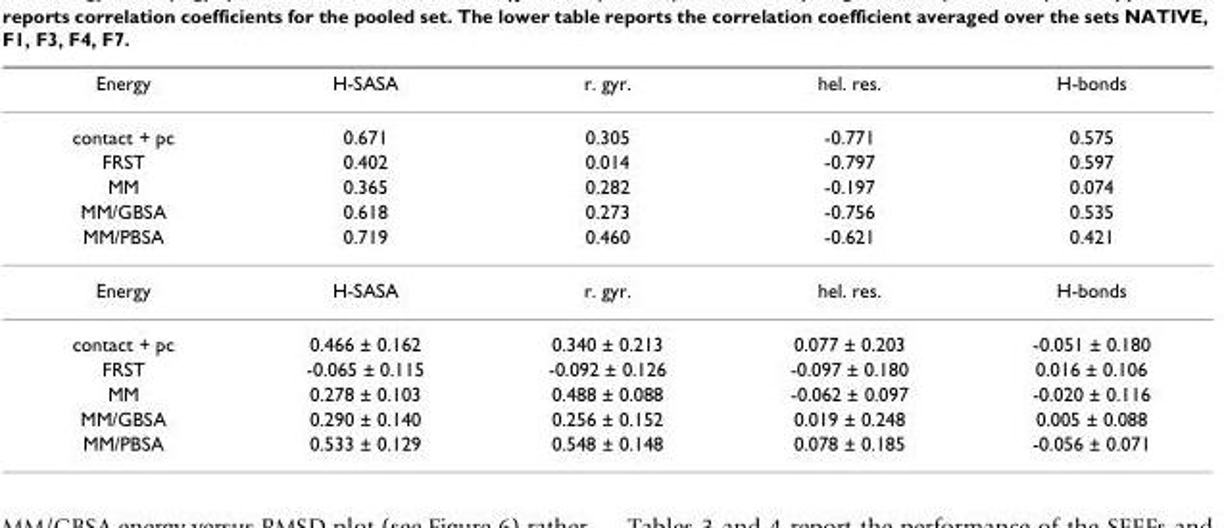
<table><thead><tr><td>Energy</td><td>H-SASA</td><td>r. gyr.</td><td>hel. res.</td><td>H-bonds</td></tr></thead><tbody><tr><td>contact + pc</td><td>0.671</td><td>0.305</td><td>-0.771</td><td>0.575</td></tr><tr><td>FRST</td><td>0.402</td><td>0.014</td><td>-0.797</td><td>0.597</td></tr><tr><td>MM</td><td>0.365</td><td>0.282</td><td>-0.197</td><td>0.074</td></tr><tr><td>MM/GBSA</td><td>0.618</td><td>0.273</td><td>-0.756</td><td>0.535</td></tr><tr><td>MM/PBSA</td><td>0.719</td><td>0.460</td><td>-0.621</td><td>0.421</td></tr><tr><td>Energy</td><td>H-SASA</td><td>r. gyr.</td><td>hel. res.</td><td>H-bonds</td></tr><tr><td>contact + pc</td><td>0.466 ± 0.162</td><td>0.340 ± 0.213</td><td>0.077 ± 0.203</td><td>-0.051 ± 0.180</td></tr><tr><td>FRST</td><td>-0.065 ± 0.115</td><td>-0.092 ± 0.126</td><td>-0.097 ± 0.180</td><td>0.016 ± 0.106</td></tr><tr><td>MM</td><td>0.278 ± 0.103</td><td>0.488 ± 0.088</td><td>-0.062 ± 0.097</td><td>-0.020 ± 0.116</td></tr><tr><td>MM/GBSA</td><td>0.290 ± 0.140</td><td>0.256 ± 0.152</td><td>0.019 ± 0.248</td><td>0.005 ± 0.088</td></tr><tr><td>MM/PBSA</td><td>0.533 ± 0.129</td><td>0.548 ± 0.148</td><td>0.078 ± 0.185</td><td>-0.056 ± 0.071</td></tr></tbody></table>